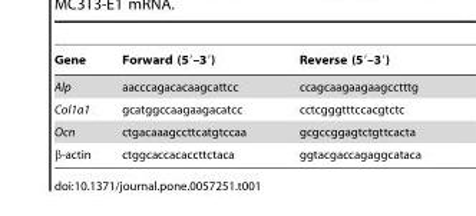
<table><thead><tr><td>Gene</td><td>Forward (5′–3′)</td><td>Reverse (5′–3′)</td></tr></thead><tbody><tr><td>Alp</td><td>aacccagacacaagcattcc</td><td>ccagcaagaagaagcctttg</td></tr><tr><td>Col1a1</td><td>gcatggccaagaagacatcc</td><td>cctcgggtttccacgtctc</td></tr><tr><td>Ocn</td><td>ctgacaaagccttcatgtccaa</td><td>gcgccggagtctgttcacta</td></tr><tr><td>β-actin</td><td>ctggcaccacaccttctaca</td><td>ggtacgaccagaggcataca</td></tr></tbody></table>